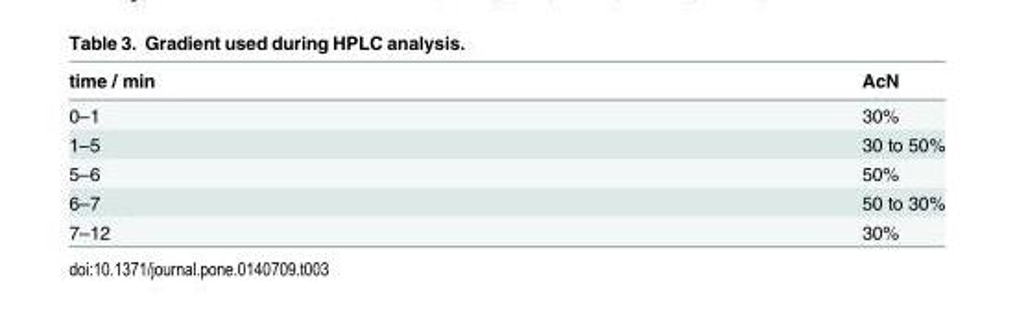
<table><thead><tr><td>time / min</td><td>AcN</td></tr></thead><tbody><tr><td>0–1</td><td>30%</td></tr><tr><td>1–5</td><td>30 to 50%</td></tr><tr><td>5–6</td><td>50%</td></tr><tr><td>6–7</td><td>50 to 30%</td></tr><tr><td>7–12</td><td>30%</td></tr></tbody></table>